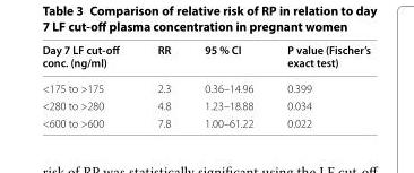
<table><thead><tr><td>Day 7 LF cut-off conc. (ng/ml)</td><td>RR</td><td>95 % CI</td><td>P value (Fischer’s exact test)</td></tr></thead><tbody><tr><td>&lt;175 to &gt;175</td><td>2.3</td><td>0.36–14.96</td><td>0.399</td></tr><tr><td>&lt;280 to &gt;280</td><td>4.8</td><td>1.23–18.88</td><td>0.034</td></tr><tr><td>&lt;600 to &gt;600</td><td>7.8</td><td>1.00–61.22</td><td>0.022</td></tr></tbody></table>